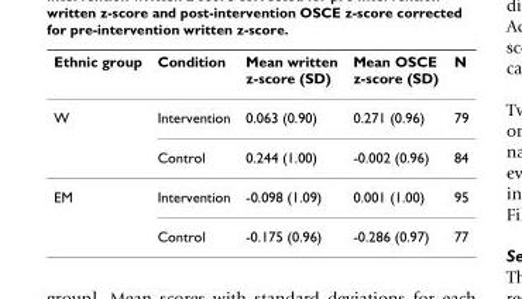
<table><thead><tr><td>Ethnic group</td><td>Condition</td><td>Mean written z-score (SD)</td><td>Mean OSCE z-score (SD)</td><td>N</td></tr></thead><tbody><tr><td rowspan="2">W</td><td>Intervention</td><td>0.063 (0.90)</td><td>0.271 (0.96)</td><td>79</td></tr><tr><td>Control</td><td>0.244 (1.00)</td><td>-0.002 (0.96)</td><td>84</td></tr><tr><td rowspan="2">EM</td><td>Intervention</td><td>-0.098 (1.09)</td><td>0.001 (1.00)</td><td>95</td></tr><tr><td>Control</td><td>-0.175 (0.96)</td><td>-0.286 (0.97)</td><td>77</td></tr></tbody></table>